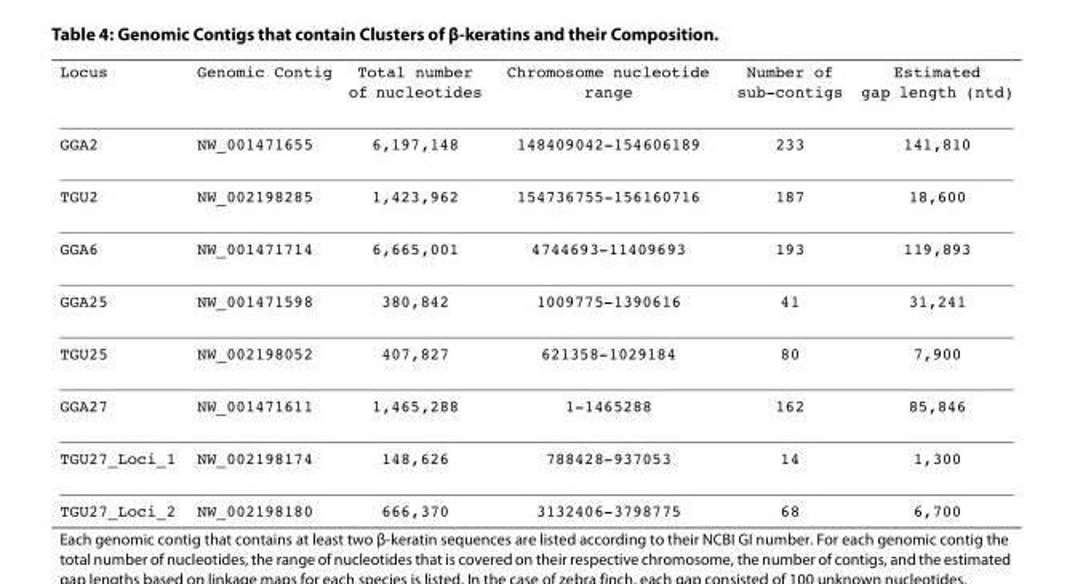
<table><thead><tr><td>Locus</td><td>Genomic Contig</td><td>Total number of nucleotides</td><td>Chromosome nucleotide range</td><td>Number of sub-contigs</td><td>Estimated gap length (ntd)</td></tr></thead><tbody><tr><td>GGA2</td><td>NW_001471655</td><td>6,197,148</td><td>148409042-154606189</td><td>233</td><td>141,810</td></tr><tr><td>TGU2</td><td>NW_002198285</td><td>1,423,962</td><td>154736755-156160716</td><td>187</td><td>18,600</td></tr><tr><td>GGA6</td><td>NW_001471714</td><td>6,665,001</td><td>4744693-11409693</td><td>193</td><td>119,893</td></tr><tr><td>GGA25</td><td>NW_001471598</td><td>380,842</td><td>1009775-1390616</td><td>41</td><td>31,241</td></tr><tr><td>TGU25</td><td>NW_002198052</td><td>407,827</td><td>621358-1029184</td><td>80</td><td>7,900</td></tr><tr><td>GGA27</td><td>NW_001471611</td><td>1,465,288</td><td>1-1465288</td><td>162</td><td>85,846</td></tr><tr><td>TGU27_Loci_1</td><td>NW_002198174</td><td>148,626</td><td>788428-937053</td><td>14</td><td>1,300</td></tr><tr><td>TGU27_Loci_2</td><td>NW_002198180</td><td>666,370</td><td>3132406-3798775</td><td>68</td><td>6,700</td></tr></tbody></table>